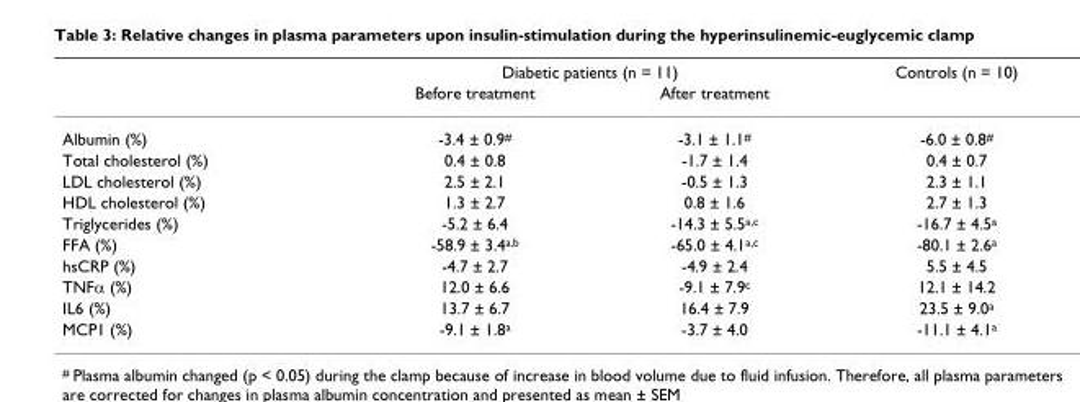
<table><thead><tr><td rowspan="2"></td><td colspan="2">Diabetic patients (n = 11)</td><td rowspan="2">Controls (n = 10)</td></tr><tr><td>Before treatment</td><td>After treatment</td></tr></thead><tbody><tr><td>Albumin (%)</td><td>-3.4 ± 0.9<sup>#</sup></td><td>-3.1 ± 1.1<sup>#</sup></td><td>-6.0 ± 0.8<sup>#</sup></td></tr><tr><td>Total cholesterol (%)</td><td>0.4 ± 0.8</td><td>-1.7 ± 1.4</td><td>0.4 ± 0.7</td></tr><tr><td>LDL cholesterol (%)</td><td>2.5 ± 2.1</td><td>-0.5 ± 1.3</td><td>2.3 ± 1.1</td></tr><tr><td>HDL cholesterol (%)</td><td>1.3 ± 2.7</td><td>0.8 ± 1.6</td><td>2.7 ± 1.3</td></tr><tr><td>Triglycerides (%)</td><td>-5.2 ± 6.4</td><td>-14.3 ± 5.5<sup>a,c</sup></td><td>-16.7 ± 4.5<sup>a</sup></td></tr><tr><td>FFA (%)</td><td>-58.9 ± 3.4<sup>a,b</sup></td><td>-65.0 ± 4.1<sup>a,c</sup></td><td>-80.1 ± 2.6<sup>a</sup></td></tr><tr><td>hsCRP (%)</td><td>-4.7 ± 2.7</td><td>-4.9 ± 2.4</td><td>5.5 ± 4.5</td></tr><tr><td>TNFα (%)</td><td>12.0 ± 6.6</td><td>-9.1 ± 7.9<sup>c</sup></td><td>12.1 ± 14.2</td></tr><tr><td>IL6 (%)</td><td>13.7 ± 6.7</td><td>16.4 ± 7.9</td><td>23.5 ± 9.0<sup>a</sup></td></tr><tr><td>MCP1 (%)</td><td>-9.1 ± 1.8<sup>a</sup></td><td>-3.7 ± 4.0</td><td>-11.1 ± 4.1<sup>a</sup></td></tr></tbody></table>